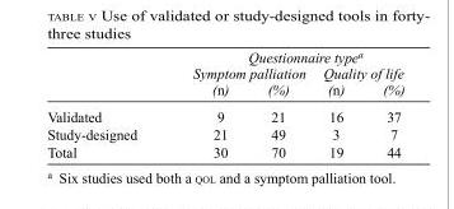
<table><thead><tr><td rowspan="3"></td><td colspan="4">Questionnaire type<sup>a</sup></td></tr><tr><td colspan="2">Symptom palliation</td><td colspan="2">Quality of life</td></tr><tr><td>(n)</td><td>(%)</td><td>(n)</td><td>(%)</td></tr></thead><tbody><tr><td>Validated</td><td>9</td><td>21</td><td>16</td><td>37</td></tr><tr><td>Study-designed</td><td>21</td><td>49</td><td>3</td><td>7</td></tr><tr><td>Total</td><td>30</td><td>70</td><td>19</td><td>44</td></tr></tbody></table>